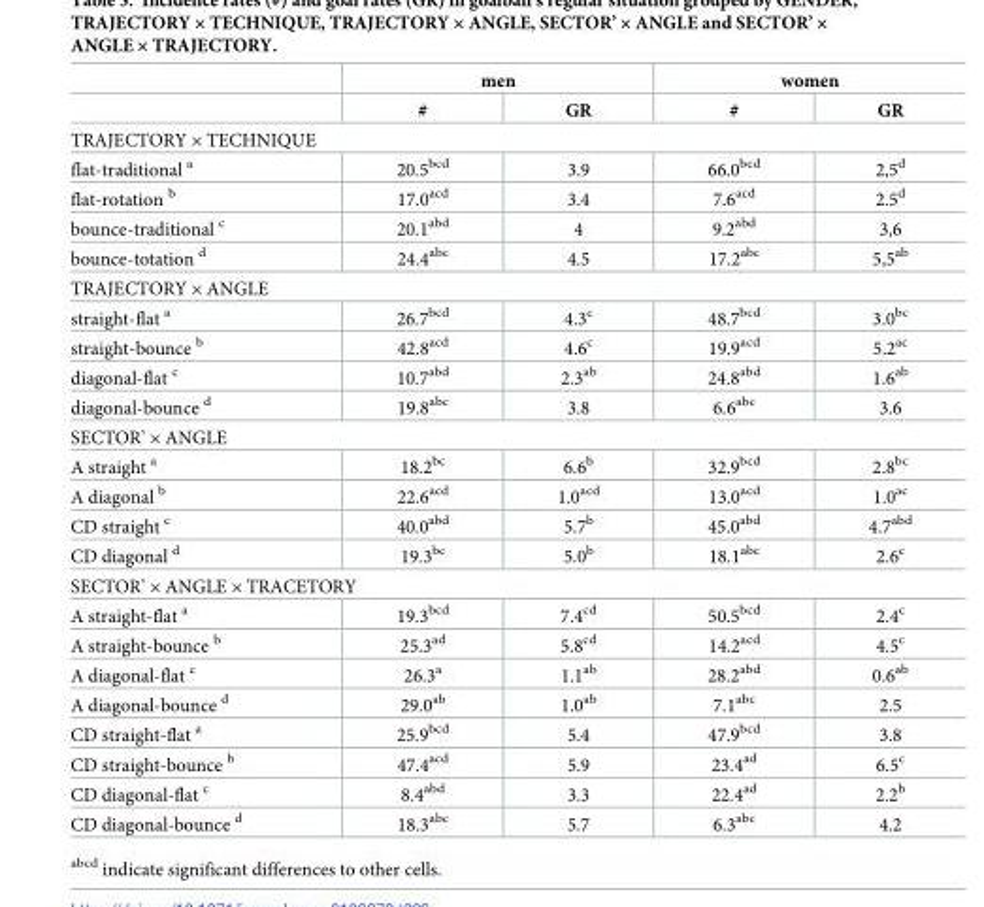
<table><thead><tr><td rowspan="2"></td><td colspan="2">men</td><td colspan="2">women</td></tr><tr><td>#</td><td>GR</td><td>#</td><td>GR</td></tr></thead><tbody><tr><td colspan="5">TRAJECTORY × TECHNIQUE</td></tr><tr><td>flat-traditional <sup>a</sup></td><td>20.5<sup>bcd</sup></td><td>3.9</td><td>66.0<sup>bcd</sup></td><td>2,5<sup>d</sup></td></tr><tr><td>flat-rotation <sup>b</sup></td><td>17.0<sup>acd</sup></td><td>3.4</td><td>7.6<sup>acd</sup></td><td>2.5<sup>d</sup></td></tr><tr><td>bounce-traditional <sup>c</sup></td><td>20.1<sup>abd</sup></td><td>4</td><td>9.2<sup>abd</sup></td><td>3,6</td></tr><tr><td>bounce-totation <sup>d</sup></td><td>24.4<sup>abc</sup></td><td>4.5</td><td>17.2<sup>abc</sup></td><td>5,5<sup>ab</sup></td></tr><tr><td colspan="5">TRAJECTORY × ANGLE</td></tr><tr><td>straight-flat <sup>a</sup></td><td>26.7<sup>bcd</sup></td><td>4.3<sup>c</sup></td><td>48.7<sup>bcd</sup></td><td>3.0<sup>bc</sup></td></tr><tr><td>straight-bounce <sup>b</sup></td><td>42.8<sup>acd</sup></td><td>4.6<sup>c</sup></td><td>19.9<sup>acd</sup></td><td>5.2<sup>ac</sup></td></tr><tr><td>diagonal-flat <sup>c</sup></td><td>10.7<sup>abd</sup></td><td>2.3<sup>ab</sup></td><td>24.8<sup>abd</sup></td><td>1.6<sup>ab</sup></td></tr><tr><td>diagonal-bounce <sup>d</sup></td><td>19.8<sup>abc</sup></td><td>3.8</td><td>6.6<sup>abc</sup></td><td>3.6</td></tr><tr><td colspan="5">SECTOR’ × ANGLE</td></tr><tr><td>A straight <sup>a</sup></td><td>18.2<sup>bc</sup></td><td>6.6<sup>b</sup></td><td>32.9<sup>bcd</sup></td><td>2.8<sup>bc</sup></td></tr><tr><td>A diagonal <sup>b</sup></td><td>22.6<sup>acd</sup></td><td>1.0<sup>acd</sup></td><td>13.0<sup>acd</sup></td><td>1.0<sup>ac</sup></td></tr><tr><td>CD straight <sup>c</sup></td><td>40.0<sup>abd</sup></td><td>5.7<sup>b</sup></td><td>45.0<sup>abd</sup></td><td>4.7<sup>abd</sup></td></tr><tr><td>CD diagonal <sup>d</sup></td><td>19.3<sup>bc</sup></td><td>5.0<sup>b</sup></td><td>18.1<sup>abc</sup></td><td>2.6<sup>c</sup></td></tr><tr><td colspan="5">SECTOR’ × ANGLE × TRACETORY</td></tr><tr><td>A straight-flat <sup>a</sup></td><td>19.3<sup>bcd</sup></td><td>7.4<sup>cd</sup></td><td>50.5<sup>bcd</sup></td><td>2.4<sup>c</sup></td></tr><tr><td>A straight-bounce <sup>b</sup></td><td>25.3<sup>ad</sup></td><td>5.8<sup>cd</sup></td><td>14.2<sup>acd</sup></td><td>4.5<sup>c</sup></td></tr><tr><td>A diagonal-flat <sup>c</sup></td><td>26.3<sup>a</sup></td><td>1.1<sup>ab</sup></td><td>28.2<sup>abd</sup></td><td>0.6<sup>ab</sup></td></tr><tr><td>A diagonal-bounce <sup>d</sup></td><td>29.0<sup>ab</sup></td><td>1.0<sup>ab</sup></td><td>7.1<sup>abc</sup></td><td>2.5</td></tr><tr><td>CD straight-flat <sup>a</sup></td><td>25.9<sup>bcd</sup></td><td>5.4</td><td>47.9<sup>bcd</sup></td><td>3.8</td></tr><tr><td>CD straight-bounce <sup>b</sup></td><td>47.4<sup>acd</sup></td><td>5.9</td><td>23.4<sup>ad</sup></td><td>6.5<sup>c</sup></td></tr><tr><td>CD diagonal-flat <sup>c</sup></td><td>8.4<sup>abd</sup></td><td>3.3</td><td>22.4<sup>ad</sup></td><td>2.2<sup>b</sup></td></tr><tr><td>CD diagonal-bounce <sup>d</sup></td><td>18.3<sup>abc</sup></td><td>5.7</td><td>6.3<sup>abc</sup></td><td>4.2</td></tr></tbody></table>